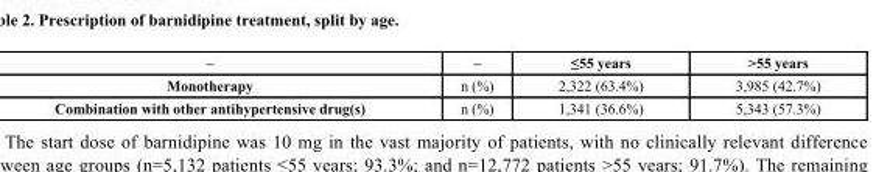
<table><thead><tr><td>–</td><td>–</td><td>≤55 years</td><td>&gt;55 years</td></tr></thead><tbody><tr><td>Monotherapy</td><td>n (%)</td><td>2,322 (63.4%)</td><td>3,985 (42.7%)</td></tr><tr><td>Combination with other antihypertensive drug(s)</td><td>n (%)</td><td>1,341 (36.6%)</td><td>5,343 (57.3%)</td></tr></tbody></table>